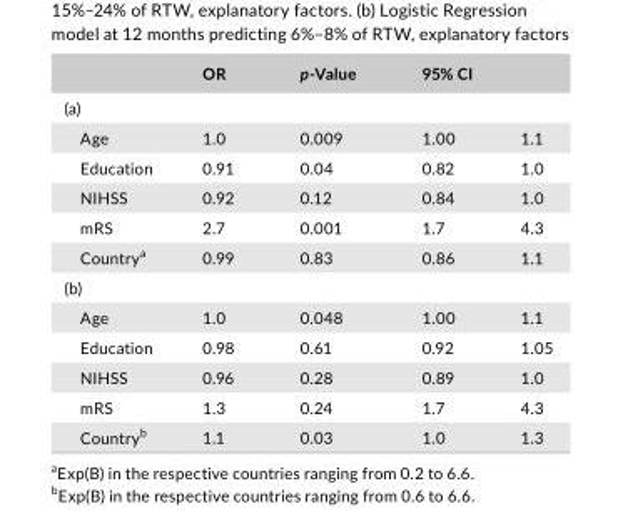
<table><thead><tr><td></td><td>OR</td><td>p- Value</td><td colspan="2">95% CI</td></tr><tr><td colspan="5">(a)</td></tr><tr><td>Age</td><td>1.0</td><td>0.009</td><td>1.00</td><td>1.1</td></tr></thead><tbody><tr><td>Education</td><td>0.91</td><td>0.04</td><td>0.82</td><td>1.0</td></tr><tr><td>NIHSS</td><td>0.92</td><td>0.12</td><td>0.84</td><td>1.0</td></tr><tr><td>mRS</td><td>2.7</td><td>0.001</td><td>1.7</td><td>4.3</td></tr><tr><td>Country<sup>a</sup></td><td>0.99</td><td>0.83</td><td>0.86</td><td>1.1</td></tr><tr><td colspan="5">(b)</td></tr><tr><td>Age</td><td>1.0</td><td>0.048</td><td>1.00</td><td>1.1</td></tr><tr><td>Education</td><td>0.98</td><td>0.61</td><td>0.92</td><td>1.05</td></tr><tr><td>NIHSS</td><td>0.96</td><td>0.28</td><td>0.89</td><td>1.0</td></tr><tr><td>mRS</td><td>1.3</td><td>0.24</td><td>1.7</td><td>4.3</td></tr><tr><td>Country<sup>b</sup></td><td>1.1</td><td>0.03</td><td>1.0</td><td>1.3</td></tr></tbody></table>